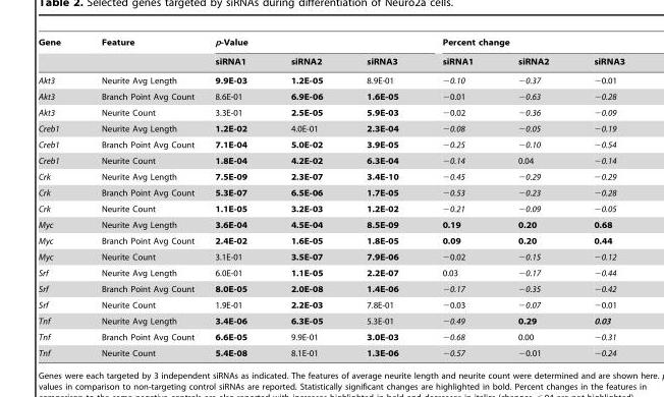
<table><thead><tr><td rowspan="2">Gene</td><td rowspan="2">Feature</td><td colspan="3">p-Value</td><td colspan="3">Percent change</td></tr><tr><td>siRNA1</td><td>siRNA2</td><td>siRNA3</td><td>siRNA1</td><td>siRNA2</td><td>siRNA3</td></tr></thead><tbody><tr><td>Akt3</td><td>Neurite Avg Length</td><td>9.9E-03</td><td>1.2E-05</td><td>8.9E-01</td><td>−0.10</td><td>−0.37</td><td>−0.01</td></tr><tr><td>Akt3</td><td>Branch Point Avg Count</td><td>8.6E-01</td><td>6.9E-06</td><td>1.6E-05</td><td>−0.01</td><td>−0.63</td><td>−0.28</td></tr><tr><td>Akt3</td><td>Neurite Count</td><td>3.3E-01</td><td>2.5E-05</td><td>5.9E-03</td><td>−0.02</td><td>−0.36</td><td>−0.09</td></tr><tr><td>Creb1</td><td>Neurite Avg Length</td><td>1.2E-02</td><td>4.0E-01</td><td>2.3E-04</td><td>−0.08</td><td>−0.05</td><td>−0.19</td></tr><tr><td>Creb1</td><td>Branch Point Avg Count</td><td>7.1E-04</td><td>5.0E-02</td><td>3.9E-05</td><td>−0.25</td><td>−0.10</td><td>−0.54</td></tr><tr><td>Creb1</td><td>Neurite Count</td><td>1.8E-04</td><td>4.2E-02</td><td>6.3E-04</td><td>−0.14</td><td>0.04</td><td>−0.14</td></tr><tr><td>Crk</td><td>Neurite Avg Length</td><td>7.5E-09</td><td>2.3E-07</td><td>3.4E-10</td><td>−0.45</td><td>−0.29</td><td>−0.29</td></tr><tr><td>Crk</td><td>Branch Point Avg Count</td><td>5.3E-07</td><td>6.5E-06</td><td>1.7E-05</td><td>−0.53</td><td>−0.23</td><td>−0.28</td></tr><tr><td>Crk</td><td>Neurite Count</td><td>1.1E-05</td><td>3.2E-03</td><td>1.2E-02</td><td>−0.21</td><td>−0.09</td><td>−0.05</td></tr><tr><td>Myc</td><td>Neurite Avg Length</td><td>3.6E-04</td><td>4.5E-04</td><td>8.5E-09</td><td>0.19</td><td>0.20</td><td>0.68</td></tr><tr><td>Myc</td><td>Branch Point Avg Count</td><td>2.4E-02</td><td>1.6E-05</td><td>1.8E-05</td><td>0.09</td><td>0.20</td><td>0.44</td></tr><tr><td>Myc</td><td>Neurite Count</td><td>3.1E-01</td><td>3.5E-07</td><td>7.9E-06</td><td>−0.02</td><td>−0.15</td><td>−0.12</td></tr><tr><td>Srf</td><td>Neurite Avg Length</td><td>6.0E-01</td><td>1.1E-05</td><td>2.2E-07</td><td>0.03</td><td>−0.17</td><td>−0.44</td></tr><tr><td>Srf</td><td>Branch Point Avg Count</td><td>8.0E-05</td><td>2.0E-08</td><td>1.4E-06</td><td>−0.17</td><td>−0.35</td><td>−0.42</td></tr><tr><td>Srf</td><td>Neurite Count</td><td>1.9E-01</td><td>2.2E-03</td><td>7.8E-01</td><td>−0.03</td><td>−0.07</td><td>−0.01</td></tr><tr><td>Tnf</td><td>Neurite Avg Length</td><td>3.4E-06</td><td>6.3E-05</td><td>5.3E-01</td><td>−0.49</td><td>0.29</td><td>0.03</td></tr><tr><td>Tnf</td><td>Branch Point Avg Count</td><td>6.6E-05</td><td>9.9E-01</td><td>3.0E-03</td><td>−0.68</td><td>0.00</td><td>−0.31</td></tr><tr><td>Tnf</td><td>Neurite Count</td><td>5.4E-08</td><td>8.1E-01</td><td>1.3E-06</td><td>−0.57</td><td>−0.01</td><td>−0.24</td></tr></tbody></table>